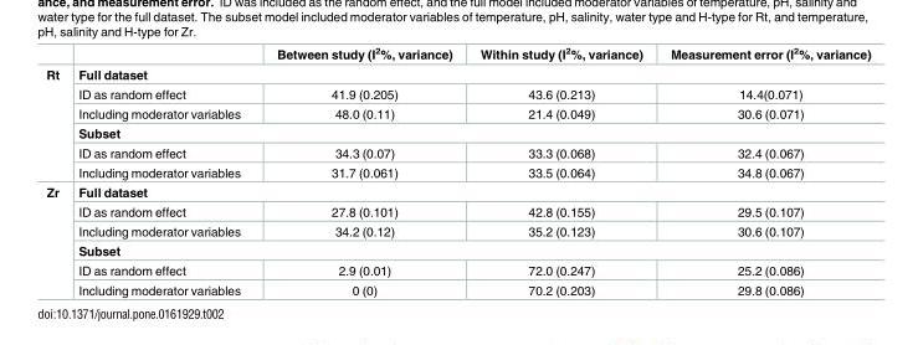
<table><thead><tr><td></td><td></td><td>Between study (I<sup>2</sup>%, variance)</td><td>Within study (I<sup>2</sup>%, variance)</td><td>Measurement error (I<sup>2</sup>%, variance)</td></tr></thead><tbody><tr><td rowspan="6">Rt</td><td colspan="4">Full dataset</td></tr><tr><td>ID as random effect</td><td>41.9 (0.205)</td><td>43.6 (0.213)</td><td>14.4(0.071)</td></tr><tr><td>Including moderator variables</td><td>48.0 (0.11)</td><td>21.4 (0.049)</td><td>30.6 (0.071)</td></tr><tr><td colspan="4">Subset</td></tr><tr><td>ID as random effect</td><td>34.3 (0.07)</td><td>33.3 (0.068)</td><td>32.4 (0.067)</td></tr><tr><td>Including moderator variables</td><td>31.7 (0.061)</td><td>33.5 (0.064)</td><td>34.8 (0.067)</td></tr><tr><td rowspan="6">Zr</td><td colspan="4">Full dataset</td></tr><tr><td>ID as random effect</td><td>27.8 (0.101)</td><td>42.8 (0.155)</td><td>29.5 (0.107)</td></tr><tr><td>Including moderator variables</td><td>34.2 (0.12)</td><td>35.2 (0.123)</td><td>30.6 (0.107)</td></tr><tr><td colspan="4">Subset</td></tr><tr><td>ID as random effect</td><td>2.9 (0.01)</td><td>72.0 (0.247)</td><td>25.2 (0.086)</td></tr><tr><td>Including moderator variables</td><td>0 (0)</td><td>70.2 (0.203)</td><td>29.8 (0.086)</td></tr></tbody></table>